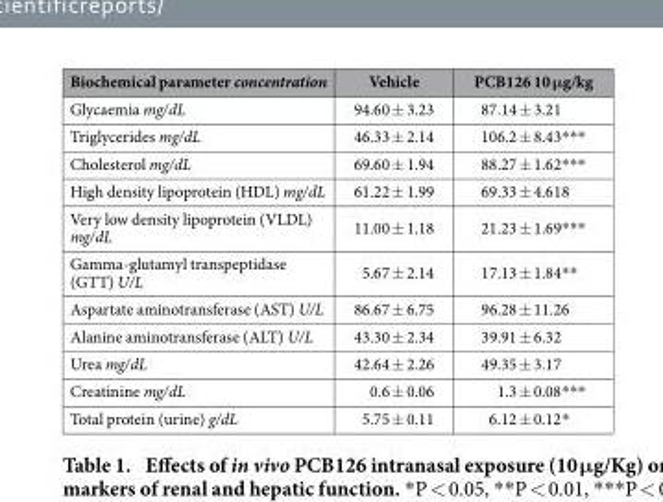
<table><thead><tr><td>Biochemical parameter concentration</td><td>Vehicle</td><td>PCB126 10 μg/kg</td></tr></thead><tbody><tr><td>Glycaemia mg/dL</td><td>94.60 ± 3.23</td><td>87.14 ± 3.21</td></tr><tr><td>Triglycerides mg/dL</td><td>46.33 ± 2.14</td><td>106.2 ± 8.43***</td></tr><tr><td>Cholesterol mg/dL</td><td>69.60 ± 1.94</td><td>88.27 ± 1.62***</td></tr><tr><td>High density lipoprotein (HDL) mg/dL</td><td>61.22 ± 1.99</td><td>69.33 ± 4.618</td></tr><tr><td>Very low density lipoprotein (VLDL) mg/dL</td><td>11.00 ± 1.18</td><td>21.23 ± 1.69***</td></tr><tr><td>Gamma-glutamyl transpeptidase (GTT) U/L</td><td>5.67 ± 2.14</td><td>17.13 ± 1.84**</td></tr><tr><td>Aspartate aminotransferase (AST) U/L</td><td>86.67 ± 6.75</td><td>96.28 ± 11.26</td></tr><tr><td>Alanine aminotransferase (ALT) U/L</td><td>43.30 ± 2.34</td><td>39.91 ± 6.32</td></tr><tr><td>Urea mg/dL</td><td>42.64 ± 2.26</td><td>49.35 ± 3.17</td></tr><tr><td>Creatinine mg/dL</td><td>0.6 ± 0.06</td><td>1.3 ± 0.08***</td></tr><tr><td>Total protein (urine) g/dL</td><td>5.75 ± 0.11</td><td>6.12 ± 0.12*</td></tr></tbody></table>